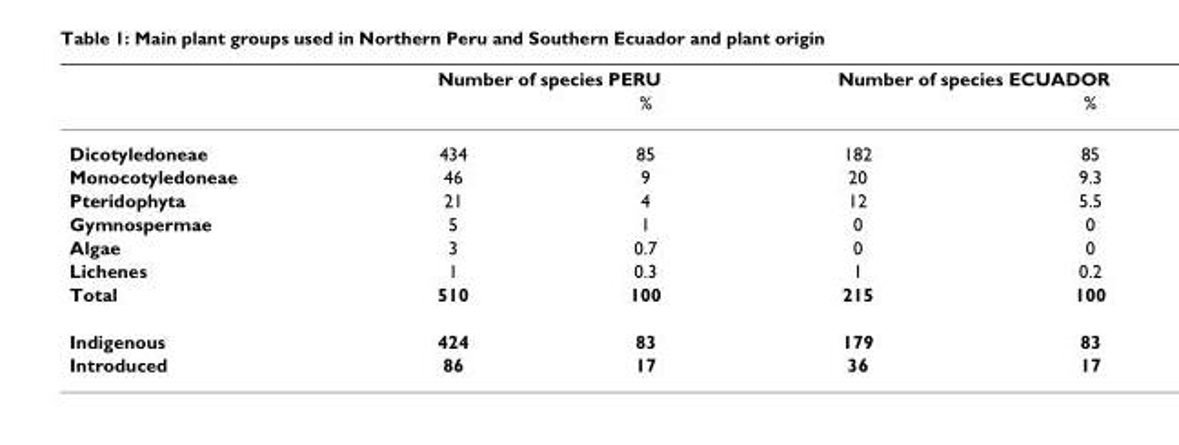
<table><thead><tr><td rowspan="2"></td><td colspan="2">Number of species PERU</td><td colspan="2">Number of species ECUADOR</td></tr><tr><td></td><td>%</td><td></td><td>%</td></tr></thead><tbody><tr><td>Dicotyledoneae</td><td>434</td><td>85</td><td>182</td><td>85</td></tr><tr><td>Monocotyledoneae</td><td>46</td><td>9</td><td>20</td><td>9.3</td></tr><tr><td>Pteridophyta</td><td>21</td><td>4</td><td>12</td><td>5.5</td></tr><tr><td>Gymnospermae</td><td>5</td><td>1</td><td>0</td><td>0</td></tr><tr><td>Algae</td><td>3</td><td>0.7</td><td>0</td><td>0</td></tr><tr><td>Lichenes</td><td>1</td><td>0.3</td><td>1</td><td>0.2</td></tr><tr><td>Total</td><td>510</td><td>100</td><td>215</td><td>100</td></tr><tr><td>Indigenous</td><td>424</td><td>83</td><td>179</td><td>83</td></tr><tr><td>Introduced</td><td>86</td><td>17</td><td>36</td><td>17</td></tr></tbody></table>